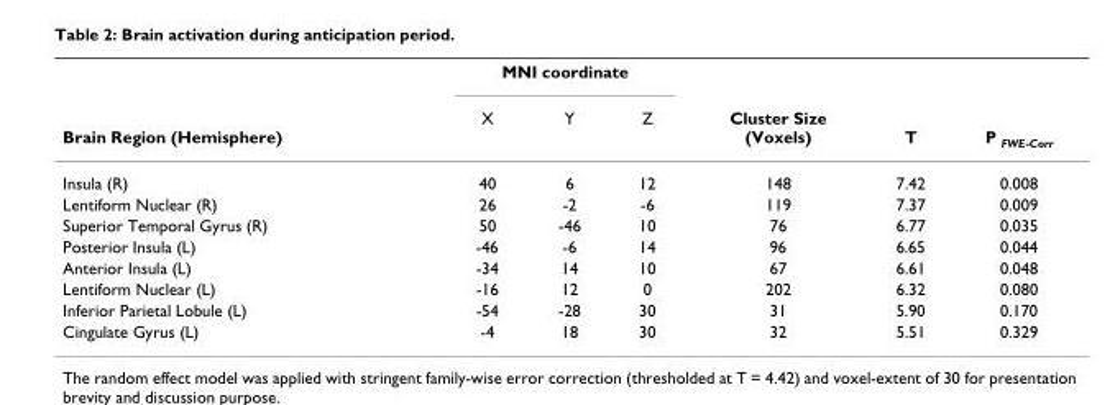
<table><thead><tr><td rowspan="2">Brain Region (Hemisphere)</td><td colspan="3">MNI coordinate</td><td rowspan="2">Cluster Size (Voxels)</td><td rowspan="2">T</td><td rowspan="2">P <sub>FWE-Corr</sub></td></tr><tr><td>X</td><td>Y</td><td>Z</td></tr></thead><tbody><tr><td>Insula (R)</td><td>40</td><td>6</td><td>12</td><td>148</td><td>7.42</td><td>0.008</td></tr><tr><td>Lentiform Nuclear (R)</td><td>26</td><td>-2</td><td>-6</td><td>119</td><td>7.37</td><td>0.009</td></tr><tr><td>Superior Temporal Gyrus (R)</td><td>50</td><td>-46</td><td>10</td><td>76</td><td>6.77</td><td>0.035</td></tr><tr><td>Posterior Insula (L)</td><td>-46</td><td>-6</td><td>14</td><td>96</td><td>6.65</td><td>0.044</td></tr><tr><td>Anterior Insula (L)</td><td>-34</td><td>14</td><td>10</td><td>67</td><td>6.61</td><td>0.048</td></tr><tr><td>Lentiform Nuclear (L)</td><td>-16</td><td>12</td><td>0</td><td>202</td><td>6.32</td><td>0.080</td></tr><tr><td>Inferior Parietal Lobule (L)</td><td>-54</td><td>-28</td><td>30</td><td>31</td><td>5.90</td><td>0.170</td></tr><tr><td>Cingulate Gyrus (L)</td><td>-4</td><td>18</td><td>30</td><td>32</td><td>5.51</td><td>0.329</td></tr></tbody></table>